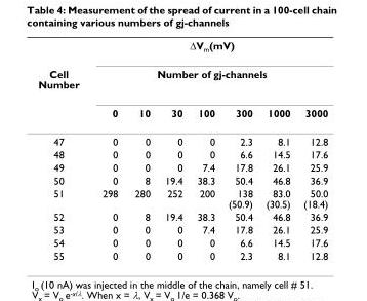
<table><thead><tr><td rowspan="3">Cell Number</td><td rowspan="2" colspan="7">∆Vm(mV) Number of gj-channels</td></tr><tr></tr><tr><td>0</td><td>10</td><td>30</td><td>100</td><td>300</td><td>1000</td><td>3000</td></tr></thead><tbody><tr><td>47</td><td>0</td><td>0</td><td>0</td><td>0</td><td>2.3</td><td>8.1</td><td>12.8</td></tr><tr><td>48</td><td>0</td><td>0</td><td>0</td><td>0</td><td>6.6</td><td>14.5</td><td>17.6</td></tr><tr><td>49</td><td>0</td><td>0</td><td>0</td><td>7.4</td><td>17.8</td><td>26.1</td><td>25.9</td></tr><tr><td>50</td><td>0</td><td>8</td><td>19.4</td><td>38.3</td><td>50.4</td><td>46.8</td><td>36.9</td></tr><tr><td>51</td><td>298</td><td>280</td><td>252</td><td>200</td><td>138 (50.9)</td><td>83.0 (30.5)</td><td>50.0 (18.4)</td></tr><tr><td>52</td><td>0</td><td>8</td><td>19.4</td><td>38.3</td><td>50.4</td><td>46.8</td><td>36.9</td></tr><tr><td>53</td><td>0</td><td>0</td><td>0</td><td>7.4</td><td>17.8</td><td>26.1</td><td>25.9</td></tr><tr><td>54</td><td>0</td><td>0</td><td>0</td><td>0</td><td>6.6</td><td>14.5</td><td>17.6</td></tr><tr><td>55</td><td>0</td><td>0</td><td>0</td><td>0</td><td>2.3</td><td>8.1</td><td>12.8</td></tr></tbody></table>